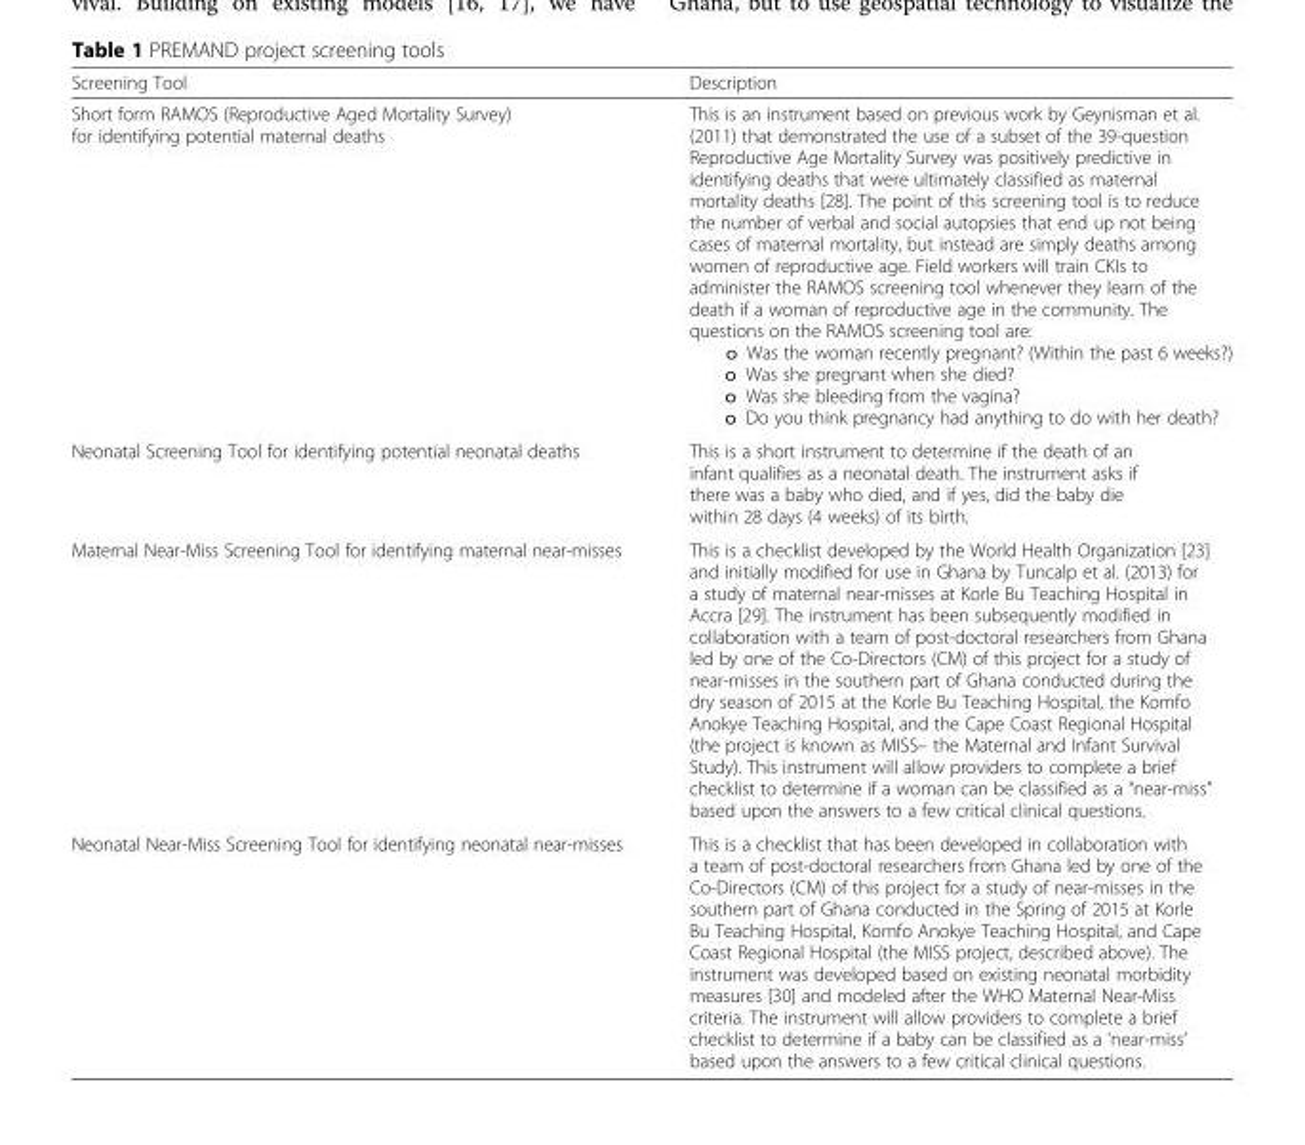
<table><thead><tr><td>Screening Tool</td><td>Description</td></tr></thead><tbody><tr><td>Short form RAMOS (Reproductive Aged Mortality Survey) for identifying potential maternal deaths</td><td>This is an instrument based on previous work by Geynisman et al. (2011) that demonstrated the use of a subset of the 39-question Reproductive Age Mortality Survey was positively predictive in identifying deaths that were ultimately classified as maternal mortality deaths [28]. The point of this screening tool is to reduce the number of verbal and social autopsies that end up not being cases of maternal mortality, but instead are simply deaths among women of reproductive age. Field workers will train CKIs to administer the RAMOS screening tool whenever they learn of the death if a woman of reproductive age in the community. The questions on the RAMOS screening tool are: o Was the woman recently pregnant? (Within the past 6 weeks?) o Was she pregnant when she died? o Was she bleeding from the vagina? o Do you think pregnancy had anything to do with her death?</td></tr><tr><td>Neonatal Screening Tool for identifying potential neonatal deaths</td><td>This is a short instrument to determine if the death of an infant qualifies as a neonatal death. The instrument asks if there was a baby who died, and if yes, did the baby die within 28 days (4 weeks) of its birth.</td></tr><tr><td>Maternal Near-Miss Screening Tool for identifying maternal near-misses</td><td>This is a checklist developed by the World Health Organization [23] and initially modified for use in Ghana by Tuncalp et al. (2013) for a study of maternal near-misses at Korle Bu Teaching Hospital in Accra [29]. The instrument has been subsequently modified in collaboration with a team of post-doctoral researchers from Ghana led by one of the Co-Directors (CM) of this project for a study of near-misses in the southern part of Ghana conducted during the dry season of 2015 at the Korle Bu Teaching Hospital, the Komfo Anokye Teaching Hospital, and the Cape Coast Regional Hospital (the project is known as MISS– the Maternal and Infant Survival Study). This instrument will allow providers to complete a brief checklist to determine if a woman can be classified as a “near-miss” based upon the answers to a few critical clinical questions.</td></tr><tr><td>Neonatal Near-Miss Screening Tool for identifying neonatal near-misses</td><td>This is a checklist that has been developed in collaboration with a team of post-doctoral researchers from Ghana led by one of the Co-Directors (CM) of this project for a study of near-misses in the southern part of Ghana conducted in the Spring of 2015 at Korle Bu Teaching Hospital, Komfo Anokye Teaching Hospital, and Cape Coast Regional Hospital (the MISS project, described above). The instrument was developed based on existing neonatal morbidity measures [30] and modeled after the WHO Maternal Near-Miss criteria. The instrument will allow providers to complete a brief checklist to determine if a baby can be classified as a ‘near-miss’ based upon the answers to a few critical clinical questions.</td></tr></tbody></table>